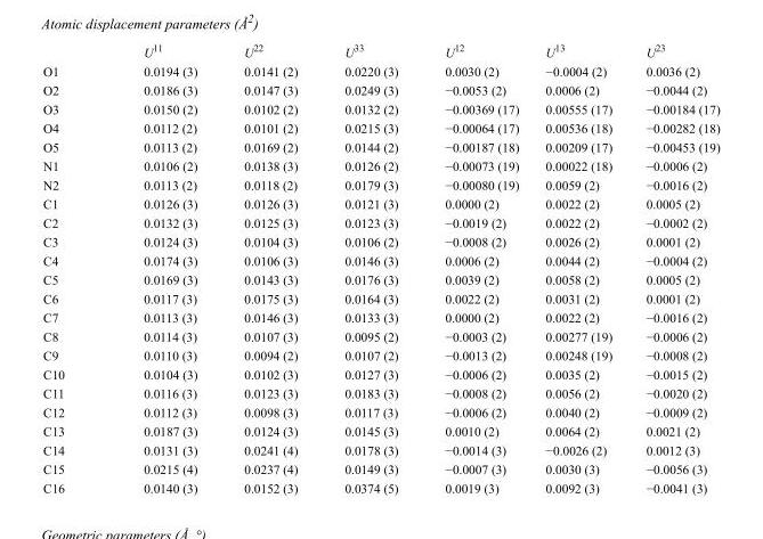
<table><thead><tr><td></td><td>U<sup>11</sup></td><td>U<sup>22</sup></td><td>U<sup>33</sup></td><td>U<sup>12</sup></td><td>U<sup>13</sup></td><td>U<sup>23</sup></td></tr></thead><tbody><tr><td>O1</td><td>0.0194 (3)</td><td>0.0141 (2)</td><td>0.0220 (3)</td><td>0.0030 (2)</td><td>−0.0004 (2)</td><td>0.0036 (2)</td></tr><tr><td>O2</td><td>0.0186 (3)</td><td>0.0147 (3)</td><td>0.0249 (3)</td><td>−0.0053 (2)</td><td>0.0006 (2)</td><td>−0.0044 (2)</td></tr><tr><td>O3</td><td>0.0150 (2)</td><td>0.0102 (2)</td><td>0.0132 (2)</td><td>−0.00369 (17)</td><td>0.00555 (17)</td><td>−0.00184 (17)</td></tr><tr><td>O4</td><td>0.0112 (2)</td><td>0.0101 (2)</td><td>0.0215 (3)</td><td>−0.00064 (17)</td><td>0.00536 (18)</td><td>−0.00282 (18)</td></tr><tr><td>O5</td><td>0.0113 (2)</td><td>0.0169 (2)</td><td>0.0144 (2)</td><td>−0.00187 (18)</td><td>0.00209 (17)</td><td>−0.00453 (19)</td></tr><tr><td>N1</td><td>0.0106 (2)</td><td>0.0138 (3)</td><td>0.0126 (2)</td><td>−0.00073 (19)</td><td>0.00022 (18)</td><td>−0.0006 (2)</td></tr><tr><td>N2</td><td>0.0113 (2)</td><td>0.0118 (2)</td><td>0.0179 (3)</td><td>−0.00080 (19)</td><td>0.0059 (2)</td><td>−0.0016 (2)</td></tr><tr><td>C1</td><td>0.0126 (3)</td><td>0.0126 (3)</td><td>0.0121 (3)</td><td>0.0000 (2)</td><td>0.0022 (2)</td><td>0.0005 (2)</td></tr><tr><td>C2</td><td>0.0132 (3)</td><td>0.0125 (3)</td><td>0.0123 (3)</td><td>−0.0019 (2)</td><td>0.0022 (2)</td><td>−0.0002 (2)</td></tr><tr><td>C3</td><td>0.0124 (3)</td><td>0.0104 (3)</td><td>0.0106 (2)</td><td>−0.0008 (2)</td><td>0.0026 (2)</td><td>0.0001 (2)</td></tr><tr><td>C4</td><td>0.0174 (3)</td><td>0.0106 (3)</td><td>0.0146 (3)</td><td>0.0006 (2)</td><td>0.0044 (2)</td><td>−0.0004 (2)</td></tr><tr><td>C5</td><td>0.0169 (3)</td><td>0.0143 (3)</td><td>0.0176 (3)</td><td>0.0039 (2)</td><td>0.0058 (2)</td><td>0.0005 (2)</td></tr><tr><td>C6</td><td>0.0117 (3)</td><td>0.0175 (3)</td><td>0.0164 (3)</td><td>0.0022 (2)</td><td>0.0031 (2)</td><td>0.0001 (2)</td></tr><tr><td>C7</td><td>0.0113 (3)</td><td>0.0146 (3)</td><td>0.0133 (3)</td><td>0.0000 (2)</td><td>0.0022 (2)</td><td>−0.0016 (2)</td></tr><tr><td>C8</td><td>0.0114 (3)</td><td>0.0107 (3)</td><td>0.0095 (2)</td><td>−0.0003 (2)</td><td>0.00277 (19)</td><td>−0.0006 (2)</td></tr><tr><td>C9</td><td>0.0110 (3)</td><td>0.0094 (2)</td><td>0.0107 (2)</td><td>−0.0013 (2)</td><td>0.00248 (19)</td><td>−0.0008 (2)</td></tr><tr><td>C10</td><td>0.0104 (3)</td><td>0.0102 (3)</td><td>0.0127 (3)</td><td>−0.0006 (2)</td><td>0.0035 (2)</td><td>−0.0015 (2)</td></tr><tr><td>C11</td><td>0.0116 (3)</td><td>0.0123 (3)</td><td>0.0183 (3)</td><td>−0.0008 (2)</td><td>0.0056 (2)</td><td>−0.0020 (2)</td></tr><tr><td>C12</td><td>0.0112 (3)</td><td>0.0098 (3)</td><td>0.0117 (3)</td><td>−0.0006 (2)</td><td>0.0040 (2)</td><td>−0.0009 (2)</td></tr><tr><td>C13</td><td>0.0187 (3)</td><td>0.0124 (3)</td><td>0.0145 (3)</td><td>0.0010 (2)</td><td>0.0064 (2)</td><td>0.0021 (2)</td></tr><tr><td>C14</td><td>0.0131 (3)</td><td>0.0241 (4)</td><td>0.0178 (3)</td><td>−0.0014 (3)</td><td>−0.0026 (2)</td><td>0.0012 (3)</td></tr><tr><td>C15</td><td>0.0215 (4)</td><td>0.0237 (4)</td><td>0.0149 (3)</td><td>−0.0007 (3)</td><td>0.0030 (3)</td><td>−0.0056 (3)</td></tr><tr><td>C16</td><td>0.0140 (3)</td><td>0.0152 (3)</td><td>0.0374 (5)</td><td>0.0019 (3)</td><td>0.0092 (3)</td><td>−0.0041 (3)</td></tr></tbody></table>